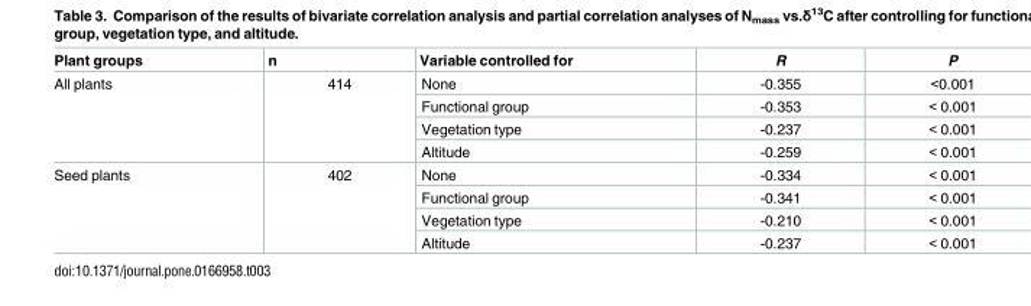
<table><thead><tr><td>Plant groups</td><td>n</td><td>Variable controlled for</td><td>R</td><td>P</td></tr></thead><tbody><tr><td rowspan="4">All plants</td><td rowspan="4">414</td><td>None</td><td>-0.355</td><td>&lt;0.001</td></tr><tr><td>Functional group</td><td>-0.353</td><td>&lt; 0.001</td></tr><tr><td>Vegetation type</td><td>-0.237</td><td>&lt; 0.001</td></tr><tr><td>Altitude</td><td>-0.259</td><td>&lt; 0.001</td></tr><tr><td rowspan="4">Seed plants</td><td rowspan="4">402</td><td>None</td><td>-0.334</td><td>&lt; 0.001</td></tr><tr><td>Functional group</td><td>-0.341</td><td>&lt; 0.001</td></tr><tr><td>Vegetation type</td><td>-0.210</td><td>&lt; 0.001</td></tr><tr><td>Altitude</td><td>-0.237</td><td>&lt; 0.001</td></tr></tbody></table>